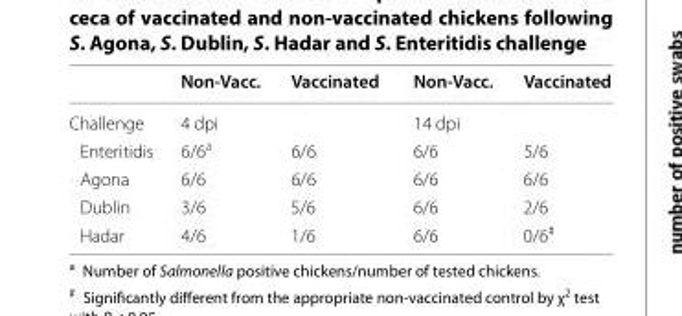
<table><thead><tr><td></td><td>Non‑Vacc.</td><td>Vaccinated</td><td>Non‑Vacc.</td><td>Vaccinated</td></tr></thead><tbody><tr><td>Challenge</td><td colspan="2">4 dpi</td><td colspan="2">14 dpi</td></tr><tr><td>Enteritidis</td><td>6/6<sup>a</sup></td><td>6/6</td><td>6/6</td><td>5/6</td></tr><tr><td>Agona</td><td>6/6</td><td>6/6</td><td>6/6</td><td>6/6</td></tr><tr><td>Dublin</td><td>3/6</td><td>5/6</td><td>6/6</td><td>2/6</td></tr><tr><td>Hadar</td><td>4/6</td><td>1/6</td><td>6/6</td><td>0/6<sup>#</sup></td></tr></tbody></table>